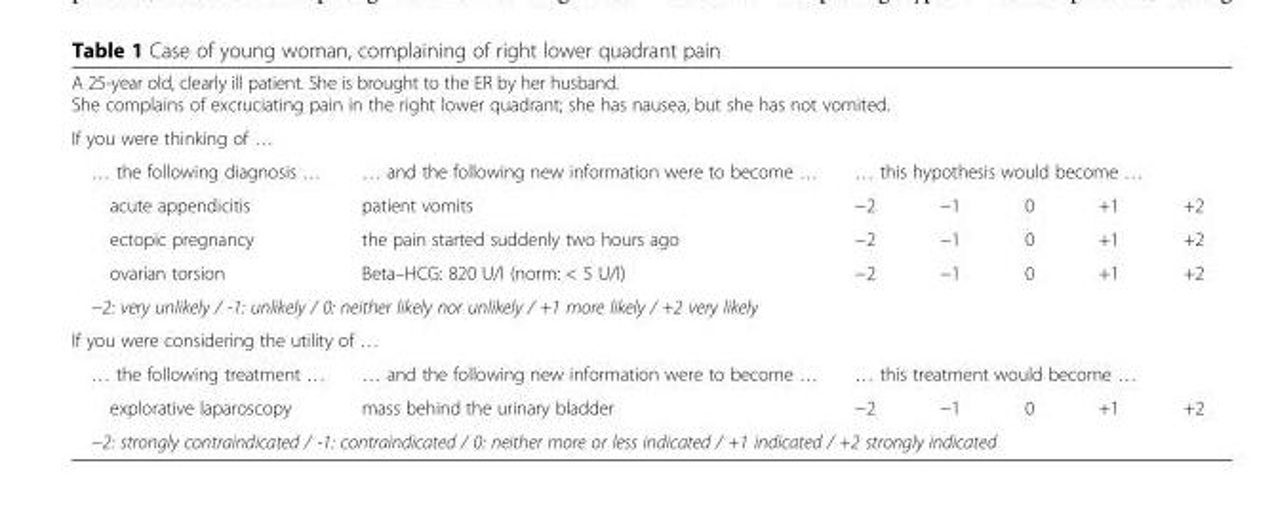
<table><tbody><tr><td colspan="7">A 25-year old, clearly ill patient. She is brought to the ER by her husband. She complains of excruciating pain in the right lower quadrant; she has nausea, but she has not vomited.</td></tr><tr><td colspan="7">If you were thinking of …</td></tr><tr><td>… the following diagnosis …</td><td>… and the following new information were to become …</td><td colspan="5">… this hypothesis would become …</td></tr><tr><td>acute appendicitis</td><td>patient vomits</td><td>−2</td><td>−1</td><td>0</td><td>+1</td><td>+2</td></tr><tr><td>ectopic pregnancy</td><td>the pain started suddenly two hours ago</td><td>−2</td><td>−1</td><td>0</td><td>+1</td><td>+2</td></tr><tr><td>ovarian torsion</td><td>Beta–HCG: 820 U/l (norm: &lt; 5 U/l)</td><td>−2</td><td>−1</td><td>0</td><td>+1</td><td>+2</td></tr><tr><td colspan="7">−2: very unlikely / -1: unlikely / 0: neither likely nor unlikely / +1 more likely / +2 very likely</td></tr><tr><td colspan="7">If you were considering the utility of …</td></tr><tr><td>… the following treatment …</td><td>… and the following new information were to become …</td><td colspan="5">… this treatment would become …</td></tr><tr><td>explorative laparoscopy</td><td>mass behind the urinary bladder</td><td>−2</td><td>−1</td><td>0</td><td>+1</td><td>+2</td></tr><tr><td colspan="7">−2: strongly contraindicated / -1: contraindicated / 0: neither more or less indicated / +1 indicated / +2 strongly indicated</td></tr></tbody></table>